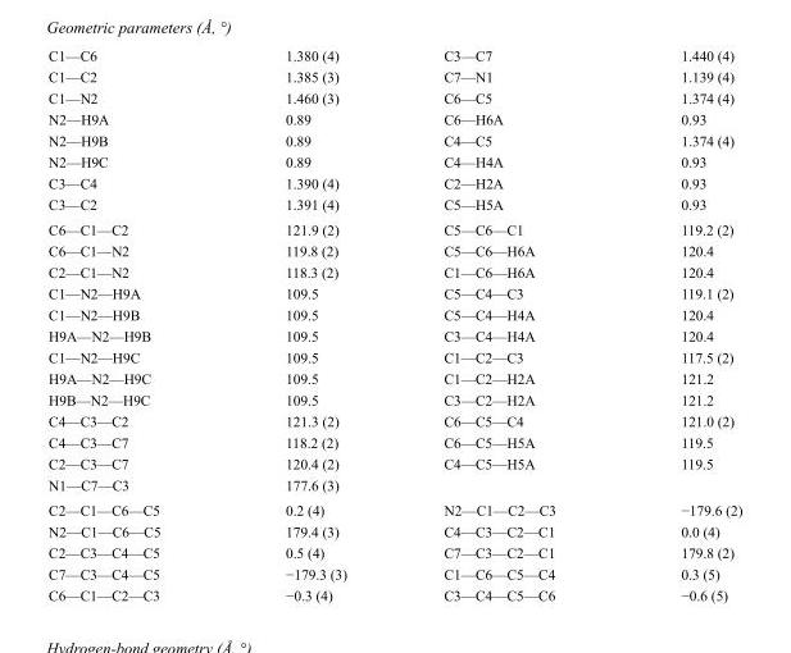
<table><tbody><tr><td>C1—C6</td><td>1.380 (4)</td><td>C3—C7</td><td>1.440 (4)</td></tr><tr><td>C1—C2</td><td>1.385 (3)</td><td>C7—N1</td><td>1.139 (4)</td></tr><tr><td>C1—N2</td><td>1.460 (3)</td><td>C6—C5</td><td>1.374 (4)</td></tr><tr><td>N2—H9A</td><td>0.89</td><td>C6—H6A</td><td>0.93</td></tr><tr><td>N2—H9B</td><td>0.89</td><td>C4—C5</td><td>1.374 (4)</td></tr><tr><td>N2—H9C</td><td>0.89</td><td>C4—H4A</td><td>0.93</td></tr><tr><td>C3—C4</td><td>1.390 (4)</td><td>C2—H2A</td><td>0.93</td></tr><tr><td>C3—C2</td><td>1.391 (4)</td><td>C5—H5A</td><td>0.93</td></tr><tr><td>C6—C1—C2</td><td>121.9 (2)</td><td>C5—C6—C1</td><td>119.2 (2)</td></tr><tr><td>C6—C1—N2</td><td>119.8 (2)</td><td>C5—C6—H6A</td><td>120.4</td></tr><tr><td>C2—C1—N2</td><td>118.3 (2)</td><td>C1—C6—H6A</td><td>120.4</td></tr><tr><td>C1—N2—H9A</td><td>109.5</td><td>C5—C4—C3</td><td>119.1 (2)</td></tr><tr><td>C1—N2—H9B</td><td>109.5</td><td>C5—C4—H4A</td><td>120.4</td></tr><tr><td>H9A—N2—H9B</td><td>109.5</td><td>C3—C4—H4A</td><td>120.4</td></tr><tr><td>C1—N2—H9C</td><td>109.5</td><td>C1—C2—C3</td><td>117.5 (2)</td></tr><tr><td>H9A—N2—H9C</td><td>109.5</td><td>C1—C2—H2A</td><td>121.2</td></tr><tr><td>H9B—N2—H9C</td><td>109.5</td><td>C3—C2—H2A</td><td>121.2</td></tr><tr><td>C4—C3—C2</td><td>121.3 (2)</td><td>C6—C5—C4</td><td>121.0 (2)</td></tr><tr><td>C4—C3—C7</td><td>118.2 (2)</td><td>C6—C5—H5A</td><td>119.5</td></tr><tr><td>C2—C3—C7</td><td>120.4 (2)</td><td>C4—C5—H5A</td><td>119.5</td></tr><tr><td>N1—C7—C3</td><td>177.6 (3)</td><td></td><td></td></tr><tr><td>C2—C1—C6—C5</td><td>0.2 (4)</td><td>N2—C1—C2—C3</td><td>−179.6 (2)</td></tr><tr><td>N2—C1—C6—C5</td><td>179.4 (3)</td><td>C4—C3—C2—C1</td><td>0.0 (4)</td></tr><tr><td>C2—C3—C4—C5</td><td>0.5 (4)</td><td>C7—C3—C2—C1</td><td>179.8 (2)</td></tr><tr><td>C7—C3—C4—C5</td><td>−179.3 (3)</td><td>C1—C6—C5—C4</td><td>0.3 (5)</td></tr><tr><td>C6—C1—C2—C3</td><td>−0.3 (4)</td><td>C3—C4—C5—C6</td><td>−0.6 (5)</td></tr></tbody></table>